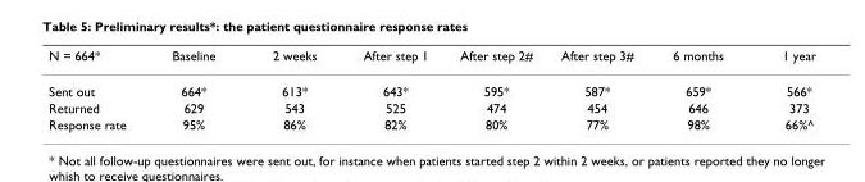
<table><thead><tr><td>N = 664*</td><td>Baseline</td><td>2 weeks</td><td>After step 1</td><td>After step 2#</td><td>After step 3#</td><td>6 months</td><td>1 year</td></tr></thead><tbody><tr><td>Sent out</td><td>664*</td><td>613*</td><td>643*</td><td>595*</td><td>587*</td><td>659*</td><td>566*</td></tr><tr><td>Returned</td><td>629</td><td>543</td><td>525</td><td>474</td><td>454</td><td>646</td><td>373</td></tr><tr><td>Response rate</td><td>95%</td><td>86%</td><td>82%</td><td>80%</td><td>77%</td><td>98%</td><td>66%^</td></tr></tbody></table>